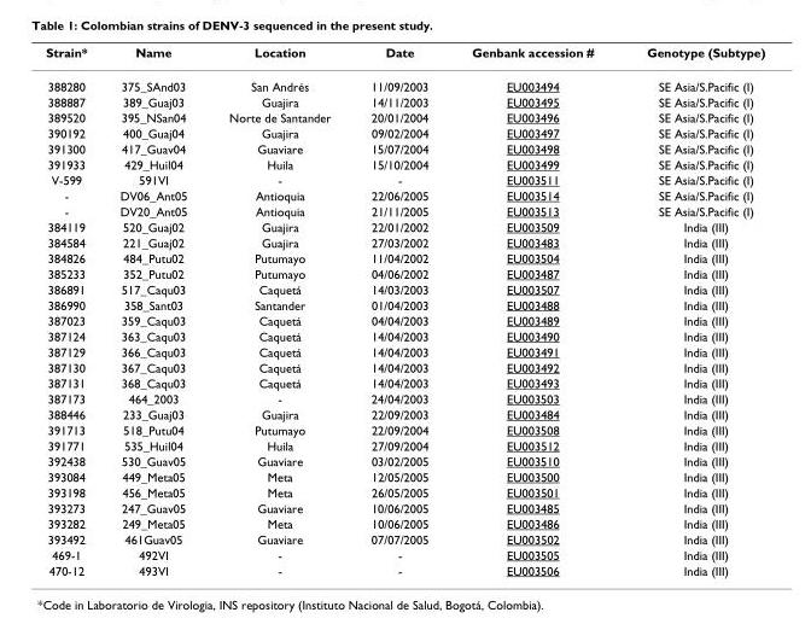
<table><thead><tr><td>Strain*</td><td>Name</td><td>Location</td><td>Date</td><td>Genbank accession #</td><td>Genotype (Subtype)</td></tr></thead><tbody><tr><td>388280</td><td>375_SAnd03</td><td>San Andrés</td><td>11/09/2003</td><td>EU003494</td><td>SE Asia/S.Pacific (I)</td></tr><tr><td>388887</td><td>389_Guaj03</td><td>Guajira</td><td>14/11/2003</td><td>EU003495</td><td>SE Asia/S.Pacific (I)</td></tr><tr><td>389520</td><td>395_NSan04</td><td>Norte de Santander</td><td>20/01/2004</td><td>EU003496</td><td>SE Asia/S.Pacific (I)</td></tr><tr><td>390192</td><td>400_Guaj04</td><td>Guajira</td><td>09/02/2004</td><td>EU003497</td><td>SE Asia/S.Pacific (I)</td></tr><tr><td>391300</td><td>417_Guav04</td><td>Guaviare</td><td>15/07/2004</td><td>EU003498</td><td>SE Asia/S.Pacific (I)</td></tr><tr><td>391933</td><td>429_Huil04</td><td>Huila</td><td>15/10/2004</td><td>EU003499</td><td>SE Asia/S.Pacific (I)</td></tr><tr><td>V-599</td><td>591VI</td><td>-</td><td>-</td><td>EU003511</td><td>SE Asia/S.Pacific (I)</td></tr><tr><td>-</td><td>DV06_Ant05</td><td>Antioquia</td><td>22/06/2005</td><td>EU003514</td><td>SE Asia/S.Pacific (I)</td></tr><tr><td>-</td><td>DV20_Ant05</td><td>Antioquia</td><td>21/11/2005</td><td>EU003513</td><td>SE Asia/S.Pacific (I)</td></tr><tr><td>384119</td><td>520_Guaj02</td><td>Guajira</td><td>22/01/2002</td><td>EU003509</td><td>India (III)</td></tr><tr><td>384584</td><td>221_Guaj02</td><td>Guajira</td><td>27/03/2002</td><td>EU003483</td><td>India (III)</td></tr><tr><td>384826</td><td>484_Putu02</td><td>Putumayo</td><td>11/04/2002</td><td>EU003504</td><td>India (III)</td></tr><tr><td>385233</td><td>352_Putu02</td><td>Putumayo</td><td>04/06/2002</td><td>EU003487</td><td>India (III)</td></tr><tr><td>386891</td><td>517_Caqu03</td><td>Caquetá</td><td>14/03/2003</td><td>EU003507</td><td>India (III)</td></tr><tr><td>386990</td><td>358_Sant03</td><td>Santander</td><td>01/04/2003</td><td>EU003488</td><td>India (III)</td></tr><tr><td>387023</td><td>359_Caqu03</td><td>Caquetá</td><td>04/04/2003</td><td>EU003489</td><td>India (III)</td></tr><tr><td>387124</td><td>363_Caqu03</td><td>Caquetá</td><td>14/04/2003</td><td>EU003490</td><td>India (III)</td></tr><tr><td>387129</td><td>366_Caqu03</td><td>Caquetá</td><td>14/04/2003</td><td>EU003491</td><td>India (III)</td></tr><tr><td>387130</td><td>367_Caqu03</td><td>Caquetá</td><td>14/04/2003</td><td>EU003492</td><td>India (III)</td></tr><tr><td>387131</td><td>368_Caqu03</td><td>Caquetá</td><td>14/04/2003</td><td>EU003493</td><td>India (III)</td></tr><tr><td>387173</td><td>464_2003</td><td>-</td><td>24/04/2003</td><td>EU003503</td><td>India (III)</td></tr><tr><td>388446</td><td>233_Guaj03</td><td>Guajira</td><td>22/09/2003</td><td>EU003484</td><td>India (III)</td></tr><tr><td>391713</td><td>518_Putu04</td><td>Putumayo</td><td>22/09/2004</td><td>EU003508</td><td>India (III)</td></tr><tr><td>391771</td><td>535_Huil04</td><td>Huila</td><td>27/09/2004</td><td>EU003512</td><td>India (III)</td></tr><tr><td>392438</td><td>530_Guav05</td><td>Guaviare</td><td>03/02/2005</td><td>EU003510</td><td>India (III)</td></tr><tr><td>393084</td><td>449_Meta05</td><td>Meta</td><td>12/05/2005</td><td>EU003500</td><td>India (III)</td></tr><tr><td>393198</td><td>456_Meta05</td><td>Meta</td><td>26/05/2005</td><td>EU003501</td><td>India (III)</td></tr><tr><td>393273</td><td>247_Guav05</td><td>Guaviare</td><td>10/06/2005</td><td>EU003485</td><td>India (III)</td></tr><tr><td>393282</td><td>249_Meta05</td><td>Meta</td><td>10/06/2005</td><td>EU003486</td><td>India (III)</td></tr><tr><td>393492</td><td>461Guav05</td><td>Guaviare</td><td>07/07/2005</td><td>EU003502</td><td>India (III)</td></tr><tr><td>469-1</td><td>492VI</td><td>-</td><td>-</td><td>EU003505</td><td>India (III)</td></tr><tr><td>470-12</td><td>493VI</td><td>-</td><td>-</td><td>EU003506</td><td>India (III)</td></tr></tbody></table>